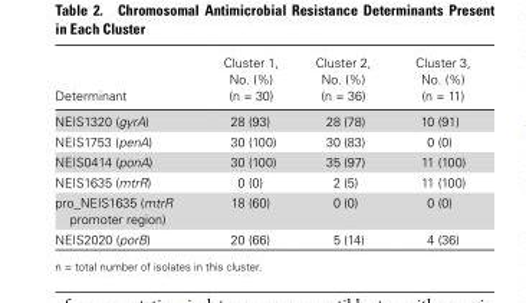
<table><thead><tr><td>Determinant</td><td>Cluster 1, No. (%) (n = 30)</td><td>Cluster 2, No. (%) (n = 36)</td><td>Cluster 3, No. (%) (n = 11)</td></tr></thead><tbody><tr><td>NEIS1320 (gyrA)</td><td>28 (93)</td><td>28 (78)</td><td>10 (91)</td></tr><tr><td>NEIS1753 (penA)</td><td>30 (100)</td><td>30 (83)</td><td>0 (0)</td></tr><tr><td>NEIS0414 (ponA)</td><td>30 (100)</td><td>35 (97)</td><td>11 (100)</td></tr><tr><td>NEIS1635 (mtrR)</td><td>0 (0)</td><td>2 (5)</td><td>11 (100)</td></tr><tr><td>pro_NEIS1635 (mtrR promoter region)</td><td>18 (60)</td><td>0 (0)</td><td>0 (0)</td></tr><tr><td>NEIS2020 (porB)</td><td>20 (66)</td><td>5 (14)</td><td>4 (36)</td></tr></tbody></table>